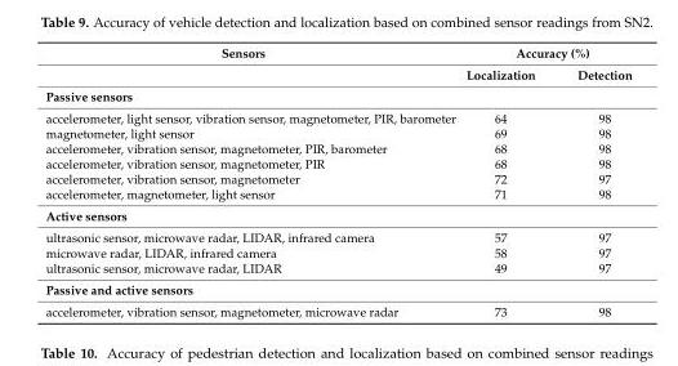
<table><thead><tr><td rowspan="2">Sensors</td><td colspan="2">Accuracy (%)</td></tr><tr><td>Localization</td><td>Detection</td></tr></thead><tbody><tr><td colspan="3">Passive sensors</td></tr><tr><td>accelerometer, light sensor, vibration sensor, magnetometer, PIR, barometer</td><td>64</td><td>98</td></tr><tr><td>magnetometer, light sensor</td><td>69</td><td>98</td></tr><tr><td>accelerometer, vibration sensor, magnetometer, PIR, barometer</td><td>68</td><td>98</td></tr><tr><td>accelerometer, vibration sensor, magnetometer, PIR</td><td>68</td><td>98</td></tr><tr><td>accelerometer, vibration sensor, magnetometer</td><td>72</td><td>97</td></tr><tr><td>accelerometer, magnetometer, light sensor</td><td>71</td><td>98</td></tr><tr><td colspan="3">Active sensors</td></tr><tr><td>ultrasonic sensor, microwave radar, LIDAR, infrared camera</td><td>57</td><td>97</td></tr><tr><td>microwave radar, LIDAR, infrared camera</td><td>58</td><td>97</td></tr><tr><td>ultrasonic sensor, microwave radar, LIDAR</td><td>49</td><td>97</td></tr><tr><td colspan="3">Passive and active sensors</td></tr><tr><td>accelerometer, vibration sensor, magnetometer, microwave radar</td><td>73</td><td>98</td></tr></tbody></table>